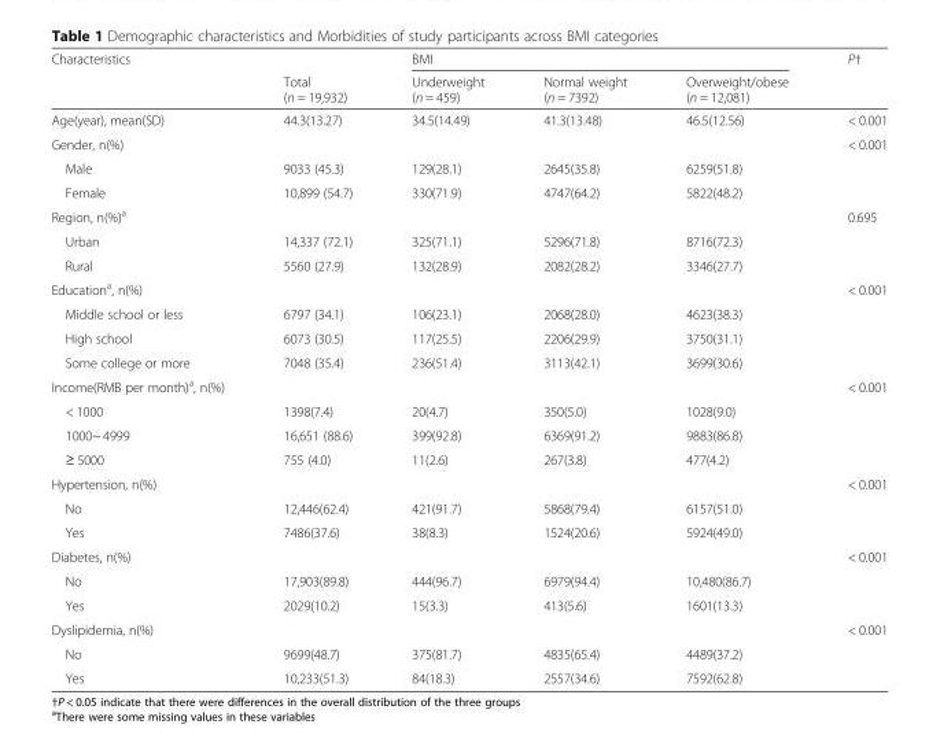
<table><thead><tr><td rowspan="2">Characteristics</td><td rowspan="2">Total (n = 19,932)</td><td colspan="3">BMI</td><td rowspan="2">P†</td></tr><tr><td>Underweight (n = 459)</td><td>Normal weight (n = 7392)</td><td>Overweight/obese (n = 12,081)</td></tr></thead><tbody><tr><td>Age(year), mean(SD)</td><td>44.3(13.27)</td><td>34.5(14.49)</td><td>41.3(13.48)</td><td>46.5(12.56)</td><td>&lt; 0.001</td></tr><tr><td>Gender, n(%)</td><td></td><td></td><td></td><td></td><td>&lt; 0.001</td></tr><tr><td>Male</td><td>9033 (45.3)</td><td>129(28.1)</td><td>2645(35.8)</td><td>6259(51.8)</td><td></td></tr><tr><td>Female</td><td>10,899 (54.7)</td><td>330(71.9)</td><td>4747(64.2)</td><td>5822(48.2)</td><td></td></tr><tr><td>Region, n(%)<sup>a</sup></td><td></td><td></td><td></td><td></td><td>0.695</td></tr><tr><td>Urban</td><td>14,337 (72.1)</td><td>325(71.1)</td><td>5296(71.8)</td><td>8716(72.3)</td><td></td></tr><tr><td>Rural</td><td>5560 (27.9)</td><td>132(28.9)</td><td>2082(28.2)</td><td>3346(27.7)</td><td></td></tr><tr><td>Education<sup>a</sup>, n(%)</td><td></td><td></td><td></td><td></td><td>&lt; 0.001</td></tr><tr><td>Middle school or less</td><td>6797 (34.1)</td><td>106(23.1)</td><td>2068(28.0)</td><td>4623(38.3)</td><td></td></tr><tr><td>High school</td><td>6073 (30.5)</td><td>117(25.5)</td><td>2206(29.9)</td><td>3750(31.1)</td><td></td></tr><tr><td>Some college or more</td><td>7048 (35.4)</td><td>236(51.4)</td><td>3113(42.1)</td><td>3699(30.6)</td><td></td></tr><tr><td>Income(RMB per month)<sup>a</sup>, n(%)</td><td></td><td></td><td></td><td></td><td>&lt; 0.001</td></tr><tr><td>&lt; 1000</td><td>1398(7.4)</td><td>20(4.7)</td><td>350(5.0)</td><td>1028(9.0)</td><td></td></tr><tr><td>1000~ 4999</td><td>16,651 (88.6)</td><td>399(92.8)</td><td>6369(91.2)</td><td>9883(86.8)</td><td></td></tr><tr><td>≥ 5000</td><td>755 (4.0)</td><td>11(2.6)</td><td>267(3.8)</td><td>477(4.2)</td><td></td></tr><tr><td>Hypertension, n(%)</td><td></td><td></td><td></td><td></td><td>&lt; 0.001</td></tr><tr><td>No</td><td>12,446(62.4)</td><td>421(91.7)</td><td>5868(79.4)</td><td>6157(51.0)</td><td></td></tr><tr><td>Yes</td><td>7486(37.6)</td><td>38(8.3)</td><td>1524(20.6)</td><td>5924(49.0)</td><td></td></tr><tr><td>Diabetes, n(%)</td><td></td><td></td><td></td><td></td><td>&lt; 0.001</td></tr><tr><td>No</td><td>17,903(89.8)</td><td>444(96.7)</td><td>6979(94.4)</td><td>10,480(86.7)</td><td></td></tr><tr><td>Yes</td><td>2029(10.2)</td><td>15(3.3)</td><td>413(5.6)</td><td>1601(13.3)</td><td></td></tr><tr><td>Dyslipidemia, n(%)</td><td></td><td></td><td></td><td></td><td>&lt; 0.001</td></tr><tr><td>No</td><td>9699(48.7)</td><td>375(81.7)</td><td>4835(65.4)</td><td>4489(37.2)</td><td></td></tr><tr><td>Yes</td><td>10,233(51.3)</td><td>84(18.3)</td><td>2557(34.6)</td><td>7592(62.8)</td><td></td></tr></tbody></table>